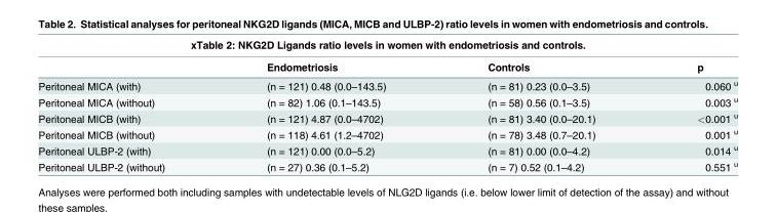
<table><thead><tr><td colspan="4">xTable 2: NKG2D Ligands ratio levels in women with endometriosis and controls.</td></tr><tr><td></td><td>Endometriosis</td><td>Controls</td><td>p</td></tr></thead><tbody><tr><td>Peritoneal MICA (with)</td><td>(n = 121) 0.48 (0.0–143.5)</td><td>(n = 81) 0.23 (0.0–3.5)</td><td>0.060 <sup>u</sup></td></tr><tr><td>Peritoneal MICA (without)</td><td>(n = 82) 1.06 (0.1–143.5)</td><td>(n = 58) 0.56 (0.1–3.5)</td><td>0.003 <sup>u</sup></td></tr><tr><td>Peritoneal MICB (with)</td><td>(n = 121) 4.87 (0.0–4702)</td><td>(n = 81) 3.40 (0.0–20.1)</td><td>&lt;0.001 <sup>u</sup></td></tr><tr><td>Peritoneal MICB (without)</td><td>(n = 118) 4.61 (1.2–4702)</td><td>(n = 78) 3.48 (0.7–20.1)</td><td>0.001 <sup>u</sup></td></tr><tr><td>Peritoneal ULBP-2 (with)</td><td>(n = 121) 0.00 (0.0–5.2)</td><td>(n = 81) 0.00 (0.0–4.2)</td><td>0.014 <sup>u</sup></td></tr><tr><td>Peritoneal ULBP-2 (without)</td><td>(n = 27) 0.36 (0.1–5.2)</td><td>(n = 7) 0.52 (0.1–4.2)</td><td>0.551 <sup>u</sup></td></tr></tbody></table>